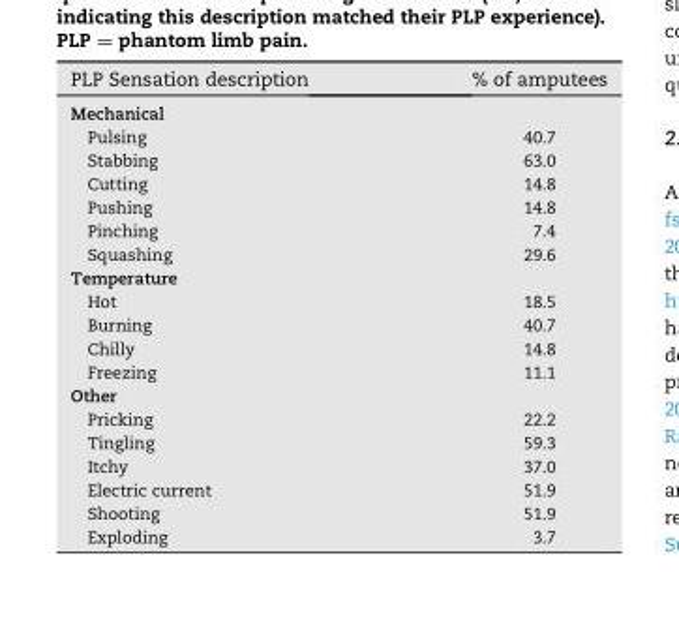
<table><thead><tr><td>PLP Sensation description</td><td>% of amputees</td></tr></thead><tbody><tr><td colspan="2">Mechanical</td></tr><tr><td>Pulsing</td><td>40.7</td></tr><tr><td>Stabbing</td><td>63.0</td></tr><tr><td>Cutting</td><td>14.8</td></tr><tr><td>Pushing</td><td>14.8</td></tr><tr><td>Pinching</td><td>7.4</td></tr><tr><td>Squashing</td><td>29.6</td></tr><tr><td colspan="2">Temperature</td></tr><tr><td>Hot</td><td>18.5</td></tr><tr><td>Burning</td><td>40.7</td></tr><tr><td>Chilly</td><td>14.8</td></tr><tr><td>Freezing</td><td>11.1</td></tr><tr><td colspan="2">Other</td></tr><tr><td>Pricking</td><td>22.2</td></tr><tr><td>Tingling</td><td>59.3</td></tr><tr><td>Itchy</td><td>37.0</td></tr><tr><td>Electric current</td><td>51.9</td></tr><tr><td>Shooting</td><td>51.9</td></tr><tr><td>Exploding</td><td>3.7</td></tr></tbody></table>